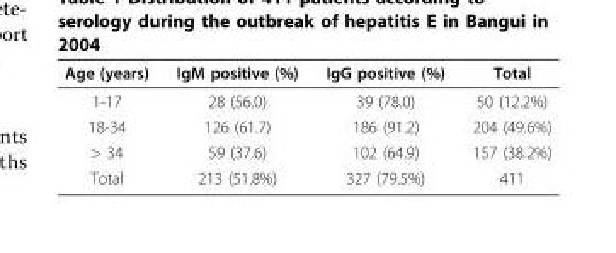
<table><thead><tr><td>Age (years)</td><td>IgM positive (%)</td><td>IgG positive (%)</td><td>Total</td></tr></thead><tbody><tr><td>1-17</td><td>28 (56.0)</td><td>39 (78.0)</td><td>50 (12.2%)</td></tr><tr><td>18-34</td><td>126 (61.7)</td><td>186 (91.2)</td><td>204 (49.6%)</td></tr><tr><td>&gt; 34</td><td>59 (37.6)</td><td>102 (64.9)</td><td>157 (38.2%)</td></tr><tr><td>Total</td><td>213 (51.8%)</td><td>327 (79.5%)</td><td>411</td></tr></tbody></table>